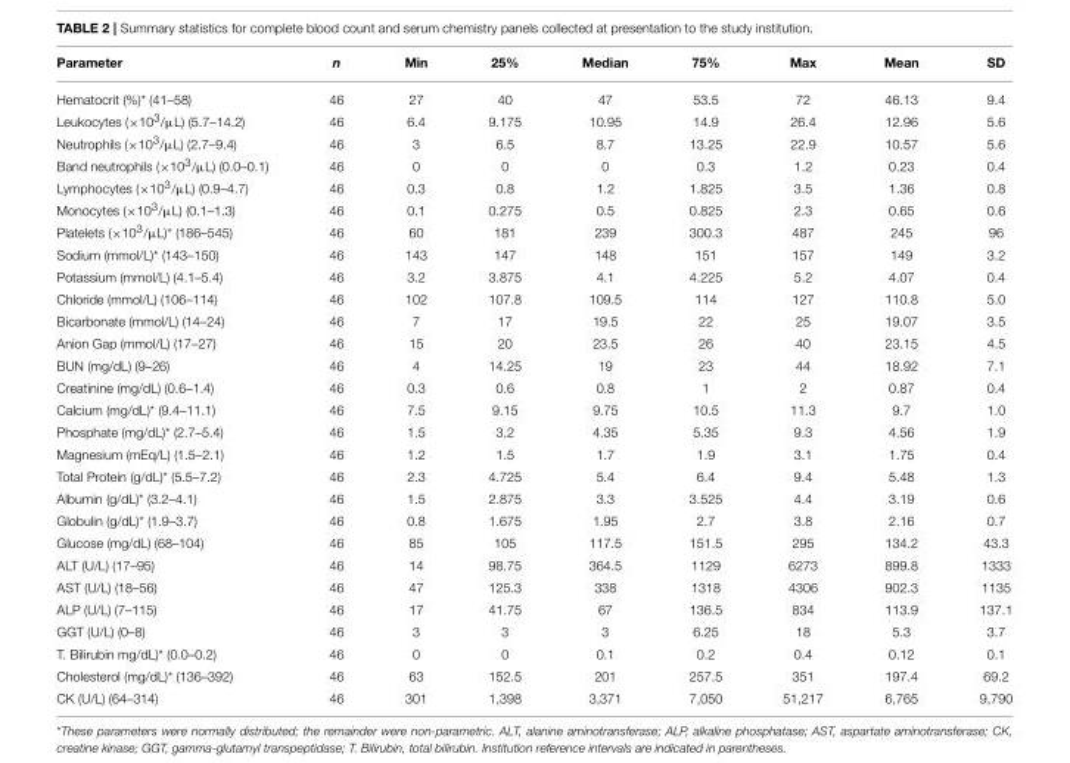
<table><thead><tr><td>Parameter</td><td>n</td><td>Min</td><td>25%</td><td>Median</td><td>75%</td><td>Max</td><td>Mean</td><td>SD</td></tr></thead><tbody><tr><td>Hematocrit (%)* (41–58)</td><td>46</td><td>27</td><td>40</td><td>47</td><td>53.5</td><td>72</td><td>46.13</td><td>9.4</td></tr><tr><td>Leukocytes (×10<sup>3</sup>/µL) (5.7–14.2)</td><td>46</td><td>6.4</td><td>9.175</td><td>10.95</td><td>14.9</td><td>26.4</td><td>12.96</td><td>5.6</td></tr><tr><td>Neutrophils (×10<sup>3</sup>/µL) (2.7–9.4)</td><td>46</td><td>3</td><td>6.5</td><td>8.7</td><td>13.25</td><td>22.9</td><td>10.57</td><td>5.6</td></tr><tr><td>Band neutrophils (×10<sup>3</sup>/µL) (0.0–0.1)</td><td>46</td><td>0</td><td>0</td><td>0</td><td>0.3</td><td>1.2</td><td>0.23</td><td>0.4</td></tr><tr><td>Lymphocytes (×10<sup>3</sup>/µL) (0.9–4.7)</td><td>46</td><td>0.3</td><td>0.8</td><td>1.2</td><td>1.825</td><td>3.5</td><td>1.36</td><td>0.8</td></tr><tr><td>Monocytes (×10<sup>3</sup>/µL) (0.1–1.3)</td><td>46</td><td>0.1</td><td>0.275</td><td>0.5</td><td>0.825</td><td>2.3</td><td>0.65</td><td>0.6</td></tr><tr><td>Platelets (×10<sup>3</sup>/µL)* (186–545)</td><td>46</td><td>60</td><td>181</td><td>239</td><td>300.3</td><td>487</td><td>245</td><td>96</td></tr><tr><td>Sodium (mmol/L)* (143–150)</td><td>46</td><td>143</td><td>147</td><td>148</td><td>151</td><td>157</td><td>149</td><td>3.2</td></tr><tr><td>Potassium (mmol/L) (4.1–5.4)</td><td>46</td><td>3.2</td><td>3.875</td><td>4.1</td><td>4.225</td><td>5.2</td><td>4.07</td><td>0.4</td></tr><tr><td>Chloride (mmol/L) (106–114)</td><td>46</td><td>102</td><td>107.8</td><td>109.5</td><td>114</td><td>127</td><td>110.8</td><td>5.0</td></tr><tr><td>Bicarbonate (mmol/L) (14–24)</td><td>46</td><td>7</td><td>17</td><td>19.5</td><td>22</td><td>25</td><td>19.07</td><td>3.5</td></tr><tr><td>Anion Gap (mmol/L) (17–27)</td><td>46</td><td>15</td><td>20</td><td>23.5</td><td>26</td><td>40</td><td>23.15</td><td>4.5</td></tr><tr><td>BUN (mg/dL) (9–26)</td><td>46</td><td>4</td><td>14.25</td><td>19</td><td>23</td><td>44</td><td>18.92</td><td>7.1</td></tr><tr><td>Creatinine (mg/dL) (0.6–1.4)</td><td>46</td><td>0.3</td><td>0.6</td><td>0.8</td><td>1</td><td>2</td><td>0.87</td><td>0.4</td></tr><tr><td>Calcium (mg/dL)* (9.4–11.1)</td><td>46</td><td>7.5</td><td>9.15</td><td>9.75</td><td>10.5</td><td>11.3</td><td>9.7</td><td>1.0</td></tr><tr><td>Phosphate (mg/dL)* (2.7–5.4)</td><td>46</td><td>1.5</td><td>3.2</td><td>4.35</td><td>5.35</td><td>9.3</td><td>4.56</td><td>1.9</td></tr><tr><td>Magnesium (mEq/L) (1.5–2.1)</td><td>46</td><td>1.2</td><td>1.5</td><td>1.7</td><td>1.9</td><td>3.1</td><td>1.75</td><td>0.4</td></tr><tr><td>Total Protein (g/dL)* (5.5–7.2)</td><td>46</td><td>2.3</td><td>4.725</td><td>5.4</td><td>6.4</td><td>9.4</td><td>5.48</td><td>1.3</td></tr><tr><td>Albumin (g/dL)* (3.2–4.1)</td><td>46</td><td>1.5</td><td>2.875</td><td>3.3</td><td>3.525</td><td>4.4</td><td>3.19</td><td>0.6</td></tr><tr><td>Globulin (g/dL)* (1.9–3.7)</td><td>46</td><td>0.8</td><td>1.675</td><td>1.95</td><td>2.7</td><td>3.8</td><td>2.16</td><td>0.7</td></tr><tr><td>Glucose (mg/dL) (68–104)</td><td>46</td><td>85</td><td>105</td><td>117.5</td><td>151.5</td><td>295</td><td>134.2</td><td>43.3</td></tr><tr><td>ALT (U/L) (17–95)</td><td>46</td><td>14</td><td>98.75</td><td>364.5</td><td>1129</td><td>6273</td><td>899.8</td><td>1333</td></tr><tr><td>AST (U/L) (18–56)</td><td>46</td><td>47</td><td>125.3</td><td>338</td><td>1318</td><td>4306</td><td>902.3</td><td>1135</td></tr><tr><td>ALP (U/L) (7–115)</td><td>46</td><td>17</td><td>41.75</td><td>67</td><td>136.5</td><td>834</td><td>113.9</td><td>137.1</td></tr><tr><td>GGT (U/L) (0–8)</td><td>46</td><td>3</td><td>3</td><td>3</td><td>6.25</td><td>18</td><td>5.3</td><td>3.7</td></tr><tr><td>T. Bilirubin mg/dL)* (0.0–0.2)</td><td>46</td><td>0</td><td>0</td><td>0.1</td><td>0.2</td><td>0.4</td><td>0.12</td><td>0.1</td></tr><tr><td>Cholesterol (mg/dL)* (136–392)</td><td>46</td><td>63</td><td>152.5</td><td>201</td><td>257.5</td><td>351</td><td>197.4</td><td>69.2</td></tr><tr><td>CK (U/L) (64–314)</td><td>46</td><td>301</td><td>1,398</td><td>3,371</td><td>7,050</td><td>51,217</td><td>6,765</td><td>9,790</td></tr></tbody></table>